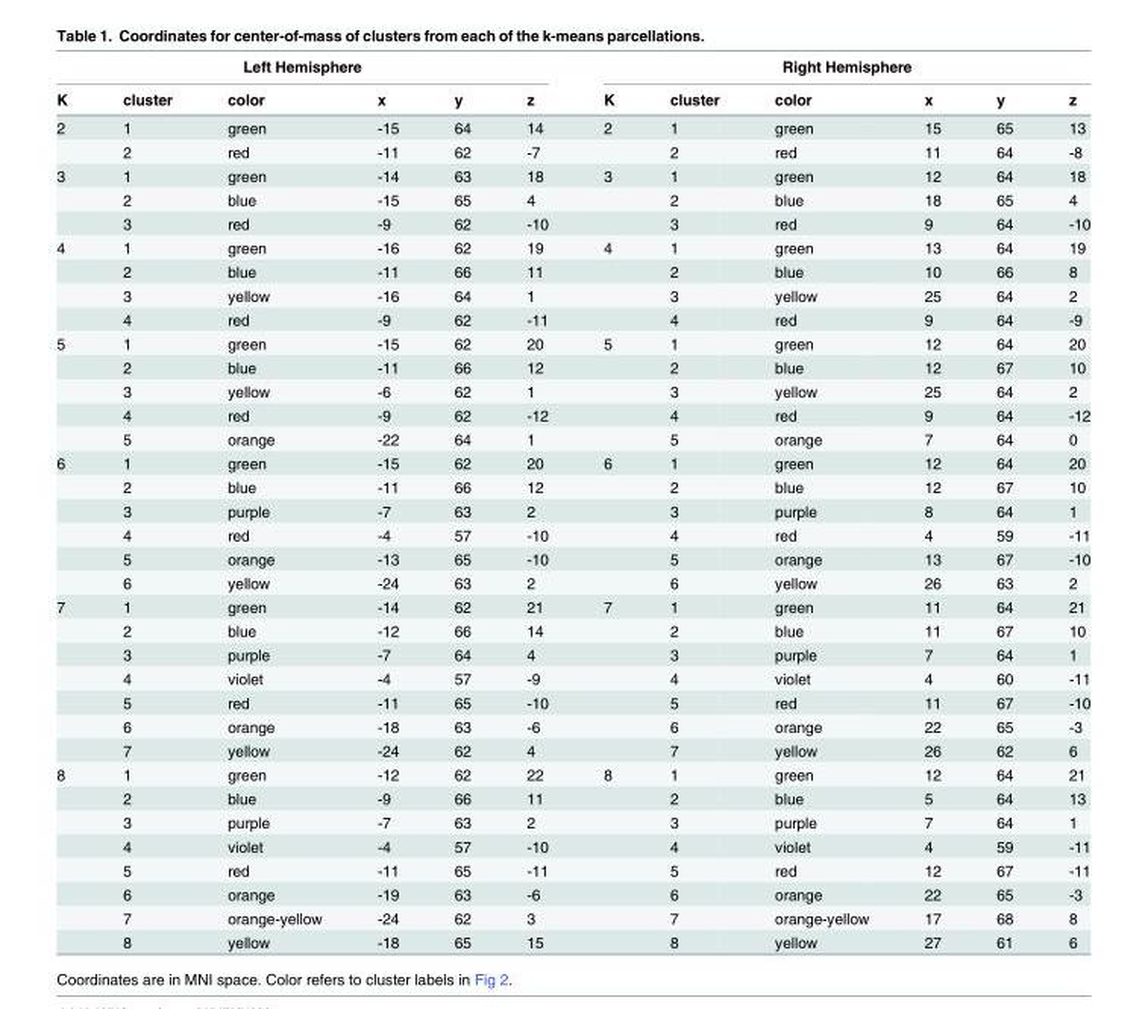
<table><thead><tr><td colspan="6">Left Hemisphere</td><td colspan="6">Right Hemisphere</td></tr><tr><td>K</td><td>cluster</td><td>color</td><td>x</td><td>y</td><td>z</td><td>K</td><td>cluster</td><td>color</td><td>x</td><td>y</td><td>z</td></tr></thead><tbody><tr><td rowspan="2">2</td><td>1</td><td>green</td><td>-15</td><td>64</td><td>14</td><td>2</td><td>1</td><td>green</td><td>15</td><td>65</td><td>13</td></tr><tr><td>2</td><td>red</td><td>-11</td><td>62</td><td>-7</td><td></td><td>2</td><td>red</td><td>11</td><td>64</td><td>-8</td></tr><tr><td rowspan="3">3</td><td>1</td><td>green</td><td>-14</td><td>63</td><td>18</td><td>3</td><td>1</td><td>green</td><td>12</td><td>64</td><td>18</td></tr><tr><td>2</td><td>blue</td><td>-15</td><td>65</td><td>4</td><td></td><td>2</td><td>blue</td><td>18</td><td>65</td><td>4</td></tr><tr><td>3</td><td>red</td><td>-9</td><td>62</td><td>-10</td><td></td><td>3</td><td>red</td><td>9</td><td>64</td><td>-10</td></tr><tr><td rowspan="4">4</td><td>1</td><td>green</td><td>-16</td><td>62</td><td>19</td><td>4</td><td>1</td><td>green</td><td>13</td><td>64</td><td>19</td></tr><tr><td>2</td><td>blue</td><td>-11</td><td>66</td><td>11</td><td></td><td>2</td><td>blue</td><td>10</td><td>66</td><td>8</td></tr><tr><td>3</td><td>yellow</td><td>-16</td><td>64</td><td>1</td><td></td><td>3</td><td>yellow</td><td>25</td><td>64</td><td>2</td></tr><tr><td>4</td><td>red</td><td>-9</td><td>62</td><td>-11</td><td></td><td>4</td><td>red</td><td>9</td><td>64</td><td>-9</td></tr><tr><td rowspan="5">5</td><td>1</td><td>green</td><td>-15</td><td>62</td><td>20</td><td>5</td><td>1</td><td>green</td><td>12</td><td>64</td><td>20</td></tr><tr><td>2</td><td>blue</td><td>-11</td><td>66</td><td>12</td><td></td><td>2</td><td>blue</td><td>12</td><td>67</td><td>10</td></tr><tr><td>3</td><td>yellow</td><td>-6</td><td>62</td><td>1</td><td></td><td>3</td><td>yellow</td><td>25</td><td>64</td><td>2</td></tr><tr><td>4</td><td>red</td><td>-9</td><td>62</td><td>-12</td><td></td><td>4</td><td>red</td><td>9</td><td>64</td><td>-12</td></tr><tr><td>5</td><td>orange</td><td>-22</td><td>64</td><td>1</td><td></td><td>5</td><td>orange</td><td>7</td><td>64</td><td>0</td></tr><tr><td rowspan="6">6</td><td>1</td><td>green</td><td>-15</td><td>62</td><td>20</td><td>6</td><td>1</td><td>green</td><td>12</td><td>64</td><td>20</td></tr><tr><td>2</td><td>blue</td><td>-11</td><td>66</td><td>12</td><td></td><td>2</td><td>blue</td><td>12</td><td>67</td><td>10</td></tr><tr><td>3</td><td>purple</td><td>-7</td><td>63</td><td>2</td><td></td><td>3</td><td>purple</td><td>8</td><td>64</td><td>1</td></tr><tr><td>4</td><td>red</td><td>-4</td><td>57</td><td>-10</td><td></td><td>4</td><td>red</td><td>4</td><td>59</td><td>-11</td></tr><tr><td>5</td><td>orange</td><td>-13</td><td>65</td><td>-10</td><td></td><td>5</td><td>orange</td><td>13</td><td>67</td><td>-10</td></tr><tr><td>6</td><td>yellow</td><td>-24</td><td>63</td><td>2</td><td></td><td>6</td><td>yellow</td><td>26</td><td>63</td><td>2</td></tr><tr><td rowspan="7">7</td><td>1</td><td>green</td><td>-14</td><td>62</td><td>21</td><td>7</td><td>1</td><td>green</td><td>11</td><td>64</td><td>21</td></tr><tr><td>2</td><td>blue</td><td>-12</td><td>66</td><td>14</td><td></td><td>2</td><td>blue</td><td>11</td><td>67</td><td>10</td></tr><tr><td>3</td><td>purple</td><td>-7</td><td>64</td><td>4</td><td></td><td>3</td><td>purple</td><td>7</td><td>64</td><td>1</td></tr><tr><td>4</td><td>violet</td><td>-4</td><td>57</td><td>-9</td><td></td><td>4</td><td>violet</td><td>4</td><td>60</td><td>-11</td></tr><tr><td>5</td><td>red</td><td>-11</td><td>65</td><td>-10</td><td></td><td>5</td><td>red</td><td>11</td><td>67</td><td>-10</td></tr><tr><td>6</td><td>orange</td><td>-18</td><td>63</td><td>-6</td><td></td><td>6</td><td>orange</td><td>22</td><td>65</td><td>-3</td></tr><tr><td>7</td><td>yellow</td><td>-24</td><td>62</td><td>4</td><td></td><td>7</td><td>yellow</td><td>26</td><td>62</td><td>6</td></tr><tr><td rowspan="8">8</td><td>1</td><td>green</td><td>-12</td><td>62</td><td>22</td><td>8</td><td>1</td><td>green</td><td>12</td><td>64</td><td>21</td></tr><tr><td>2</td><td>blue</td><td>-9</td><td>66</td><td>11</td><td></td><td>2</td><td>blue</td><td>5</td><td>64</td><td>13</td></tr><tr><td>3</td><td>purple</td><td>-7</td><td>63</td><td>2</td><td></td><td>3</td><td>purple</td><td>7</td><td>64</td><td>1</td></tr><tr><td>4</td><td>violet</td><td>-4</td><td>57</td><td>-10</td><td></td><td>4</td><td>violet</td><td>4</td><td>59</td><td>-11</td></tr><tr><td>5</td><td>red</td><td>-11</td><td>65</td><td>-11</td><td></td><td>5</td><td>red</td><td>12</td><td>67</td><td>-11</td></tr><tr><td>6</td><td>orange</td><td>-19</td><td>63</td><td>-6</td><td></td><td>6</td><td>orange</td><td>22</td><td>65</td><td>-3</td></tr><tr><td>7</td><td>orange-yellow</td><td>-24</td><td>62</td><td>3</td><td></td><td>7</td><td>orange-yellow</td><td>17</td><td>68</td><td>8</td></tr><tr><td>8</td><td>yellow</td><td>-18</td><td>65</td><td>15</td><td></td><td>8</td><td>yellow</td><td>27</td><td>61</td><td>6</td></tr></tbody></table>